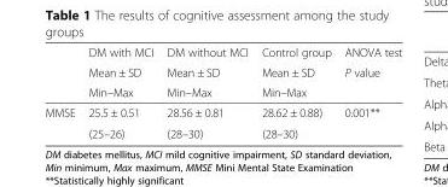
<table><thead><tr><td rowspan="3"></td><td rowspan="3">DM with MCI Mean ± SD Min–Max</td><td rowspan="3">DM without MCI Mean ± SD Min–Max</td><td rowspan="3">Control group Mean ± SD Min–Max</td><td rowspan="3">ANOVA test P value</td></tr><tr></tr><tr></tr></thead><tbody><tr><td rowspan="2">MMSE</td><td>25.5 ± 0.51</td><td>28.56 ± 0.81</td><td>28.62 ± 0.88)</td><td>0.001**</td></tr><tr><td>(25–26)</td><td>(28–30)</td><td>(28–30)</td><td></td></tr></tbody></table>